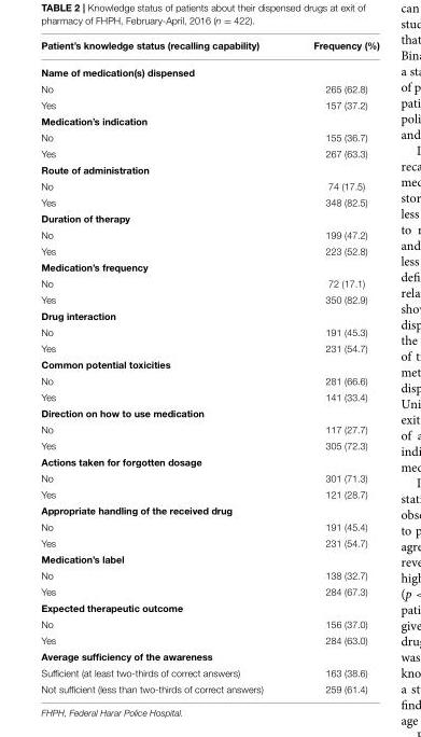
<table><thead><tr><td>Patient’s knowledge status (recalling capability)</td><td>Frequency (%)</td></tr></thead><tbody><tr><td colspan="2">Name of medication(s) dispensed</td></tr><tr><td>No</td><td>265 (62.8)</td></tr><tr><td>Yes</td><td>157 (37.2)</td></tr><tr><td colspan="2">Medication’s indication</td></tr><tr><td>No</td><td>155 (36.7)</td></tr><tr><td>Yes</td><td>267 (63.3)</td></tr><tr><td colspan="2">Route of administration</td></tr><tr><td>No</td><td>74 (17.5)</td></tr><tr><td>Yes</td><td>348 (82.5)</td></tr><tr><td colspan="2">Duration of therapy</td></tr><tr><td>No</td><td>199 (47.2)</td></tr><tr><td>Yes</td><td>223 (52.8)</td></tr><tr><td colspan="2">Medication’s frequency</td></tr><tr><td>No</td><td>72 (17.1)</td></tr><tr><td>Yes</td><td>350 (82.9)</td></tr><tr><td colspan="2">Drug interaction</td></tr><tr><td>No</td><td>191 (45.3)</td></tr><tr><td>Yes</td><td>231 (54.7)</td></tr><tr><td colspan="2">Common potential toxicities</td></tr><tr><td>No</td><td>281 (66.6)</td></tr><tr><td>Yes</td><td>141 (33.4)</td></tr><tr><td colspan="2">Direction on how to use medication</td></tr><tr><td>No</td><td>117 (27.7)</td></tr><tr><td>Yes</td><td>305 (72.3)</td></tr><tr><td colspan="2">Actions taken for forgotten dosage</td></tr><tr><td>No</td><td>301 (71.3)</td></tr><tr><td>Yes</td><td>121 (28.7)</td></tr><tr><td colspan="2">Appropriate handling of the received drug</td></tr><tr><td>No</td><td>191 (45.4)</td></tr><tr><td>Yes</td><td>231 (54.7)</td></tr><tr><td colspan="2">Medication’s label</td></tr><tr><td>No</td><td>138 (32.7)</td></tr><tr><td>Yes</td><td>284 (67.3)</td></tr><tr><td colspan="2">Expected therapeutic outcome</td></tr><tr><td>No</td><td>156 (37.0)</td></tr><tr><td>Yes</td><td>284 (63.0)</td></tr><tr><td colspan="2">Average sufficiency of the awareness</td></tr><tr><td>Sufficient (at least two-thirds of correct answers)</td><td>163 (38.6)</td></tr><tr><td>Not sufficient (less than two-thirds of correct answers)</td><td>259 (61.4)</td></tr></tbody></table>